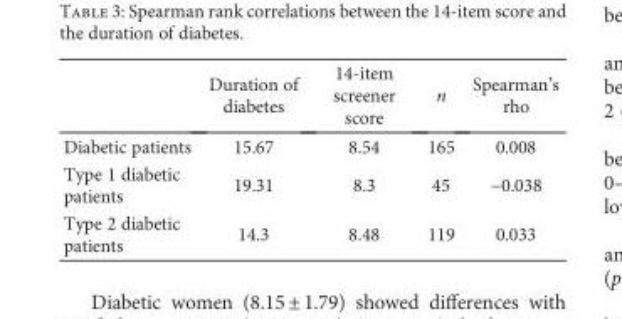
<table><thead><tr><td></td><td>Duration of diabetes</td><td>14-item screener score</td><td>n</td><td>Spearman’s rho</td></tr></thead><tbody><tr><td>Diabetic patients</td><td>15.67</td><td>8.54</td><td>165</td><td>0.008</td></tr><tr><td>Type 1 diabetic patients</td><td>19.31</td><td>8.3</td><td>45</td><td>−0.038</td></tr><tr><td>Type 2 diabetic patients</td><td>14.3</td><td>8.48</td><td>119</td><td>0.033</td></tr></tbody></table>